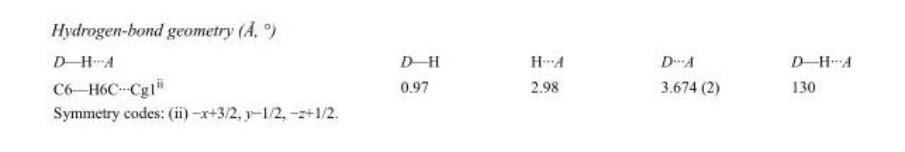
<table><tbody><tr><td>D—H···A</td><td>D—H</td><td>H···A</td><td>D···A</td><td>D—H···A</td></tr><tr><td>C6—H6C···Cg1<sup>ii</sup></td><td>0.97</td><td>2.98</td><td>3.674 (2)</td><td>130</td></tr></tbody></table>